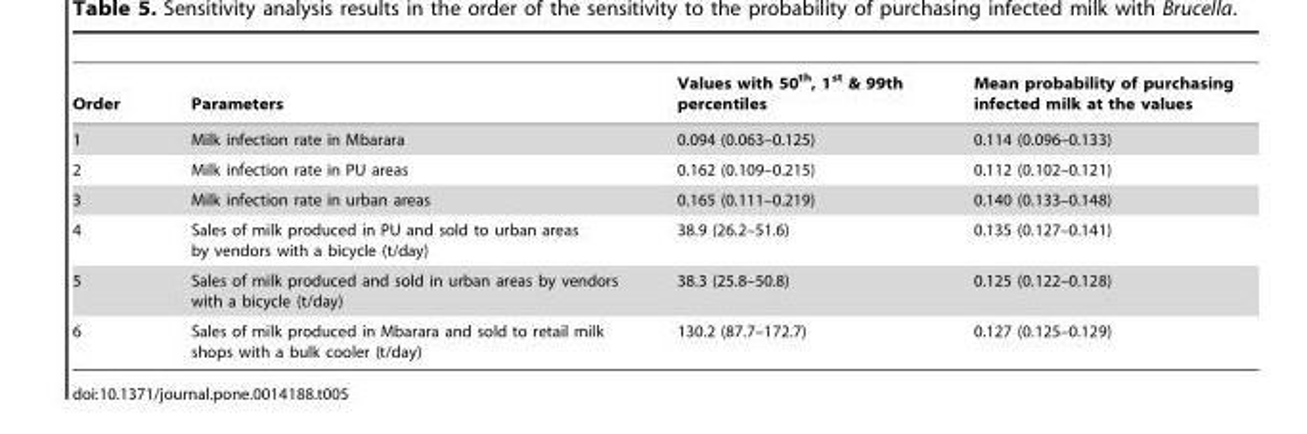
<table><thead><tr><td>Order</td><td>Parameters</td><td>Values with 50<sup>th</sup>, 1<sup>st</sup> &amp; 99th percentiles</td><td>Mean probability of purchasing infected milk at the values</td></tr></thead><tbody><tr><td>1</td><td>Milk infection rate in Mbarara</td><td>0.094 (0.063–0.125)</td><td>0.114 (0.096–0.133)</td></tr><tr><td>2</td><td>Milk infection rate in PU areas</td><td>0.162 (0.109–0.215)</td><td>0.112 (0.102–0.121)</td></tr><tr><td>3</td><td>Milk infection rate in urban areas</td><td>0.165 (0.111–0.219)</td><td>0.140 (0.133–0.148)</td></tr><tr><td>4</td><td>Sales of milk produced in PU and sold to urban areas by vendors with a bicycle (t/day)</td><td>38.9 (26.2–51.6)</td><td>0.135 (0.127–0.141)</td></tr><tr><td>5</td><td>Sales of milk produced and sold in urban areas by vendors with a bicycle (t/day)</td><td>38.3 (25.8–50.8)</td><td>0.125 (0.122–0.128)</td></tr><tr><td>6</td><td>Sales of milk produced in Mbarara and sold to retail milk shops with a bulk cooler (t/day)</td><td>130.2 (87.7–172.7)</td><td>0.127 (0.125–0.129)</td></tr></tbody></table>